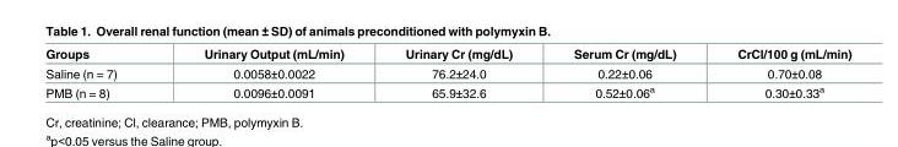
<table><thead><tr><td>Groups</td><td>Urinary Output (mL/min)</td><td>Urinary Cr (mg/dL)</td><td>Serum Cr (mg/dL)</td><td>CrCl/100 g (mL/min)</td></tr></thead><tbody><tr><td>Saline (n = 7)</td><td>0.0058±0.0022</td><td>76.2±24.0</td><td>0.22±0.06</td><td>0.70±0.08</td></tr><tr><td>PMB (n = 8)</td><td>0.0096±0.0091</td><td>65.9±32.6</td><td>0.52±0.06<sup>a</sup></td><td>0.30±0.33<sup>a</sup></td></tr></tbody></table>